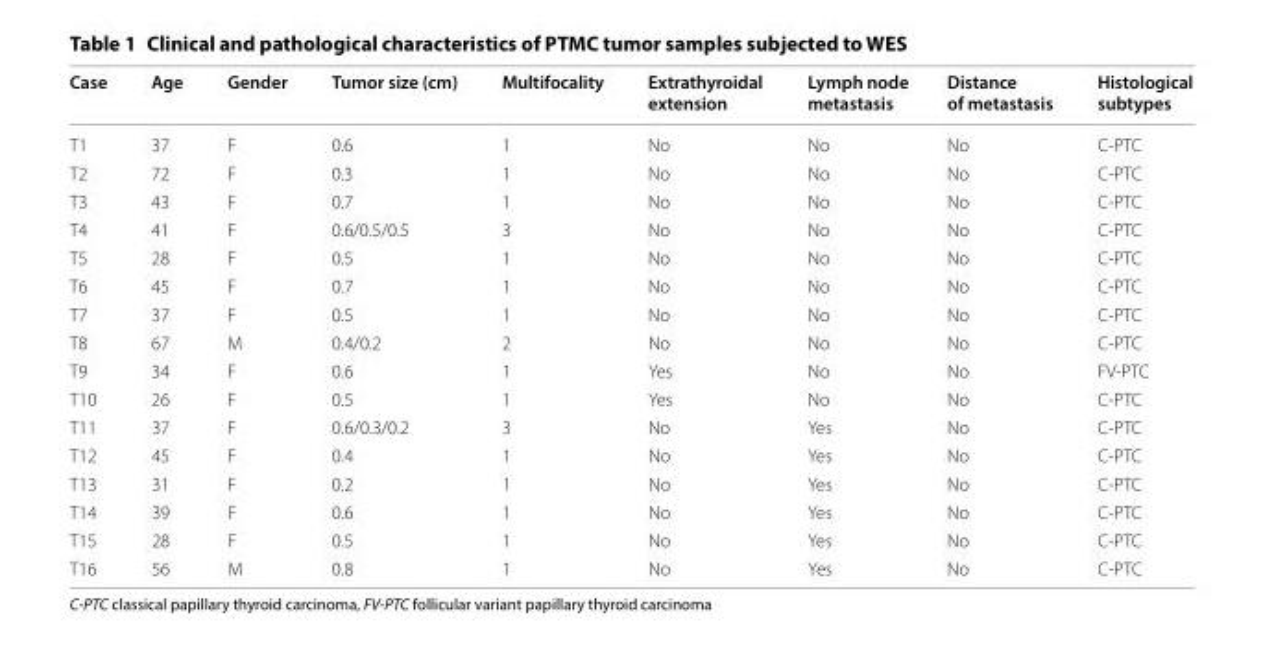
<table><thead><tr><td>Case</td><td>Age</td><td>Gender</td><td>Tumor size (cm)</td><td>Multifocality</td><td>Extrathyroidal extension</td><td>Lymph node metastasis</td><td>Distance of metastasis</td><td>Histological subtypes</td></tr></thead><tbody><tr><td>T1</td><td>37</td><td>F</td><td>0.6</td><td>1</td><td>No</td><td>No</td><td>No</td><td>C-PTC</td></tr><tr><td>T2</td><td>72</td><td>F</td><td>0.3</td><td>1</td><td>No</td><td>No</td><td>No</td><td>C-PTC</td></tr><tr><td>T3</td><td>43</td><td>F</td><td>0.7</td><td>1</td><td>No</td><td>No</td><td>No</td><td>C-PTC</td></tr><tr><td>T4</td><td>41</td><td>F</td><td>0.6/0.5/0.5</td><td>3</td><td>No</td><td>No</td><td>No</td><td>C-PTC</td></tr><tr><td>T5</td><td>28</td><td>F</td><td>0.5</td><td>1</td><td>No</td><td>No</td><td>No</td><td>C-PTC</td></tr><tr><td>T6</td><td>45</td><td>F</td><td>0.7</td><td>1</td><td>No</td><td>No</td><td>No</td><td>C-PTC</td></tr><tr><td>T7</td><td>37</td><td>F</td><td>0.5</td><td>1</td><td>No</td><td>No</td><td>No</td><td>C-PTC</td></tr><tr><td>T8</td><td>67</td><td>M</td><td>0.4/0.2</td><td>2</td><td>No</td><td>No</td><td>No</td><td>C-PTC</td></tr><tr><td>T9</td><td>34</td><td>F</td><td>0.6</td><td>1</td><td>Yes</td><td>No</td><td>No</td><td>FV-PTC</td></tr><tr><td>T10</td><td>26</td><td>F</td><td>0.5</td><td>1</td><td>Yes</td><td>No</td><td>No</td><td>C-PTC</td></tr><tr><td>T11</td><td>37</td><td>F</td><td>0.6/0.3/0.2</td><td>3</td><td>No</td><td>Yes</td><td>No</td><td>C-PTC</td></tr><tr><td>T12</td><td>45</td><td>F</td><td>0.4</td><td>1</td><td>No</td><td>Yes</td><td>No</td><td>C-PTC</td></tr><tr><td>T13</td><td>31</td><td>F</td><td>0.2</td><td>1</td><td>No</td><td>Yes</td><td>No</td><td>C-PTC</td></tr><tr><td>T14</td><td>39</td><td>F</td><td>0.6</td><td>1</td><td>No</td><td>Yes</td><td>No</td><td>C-PTC</td></tr><tr><td>T15</td><td>28</td><td>F</td><td>0.5</td><td>1</td><td>No</td><td>Yes</td><td>No</td><td>C-PTC</td></tr><tr><td>T16</td><td>56</td><td>M</td><td>0.8</td><td>1</td><td>No</td><td>Yes</td><td>No</td><td>C-PTC</td></tr></tbody></table>